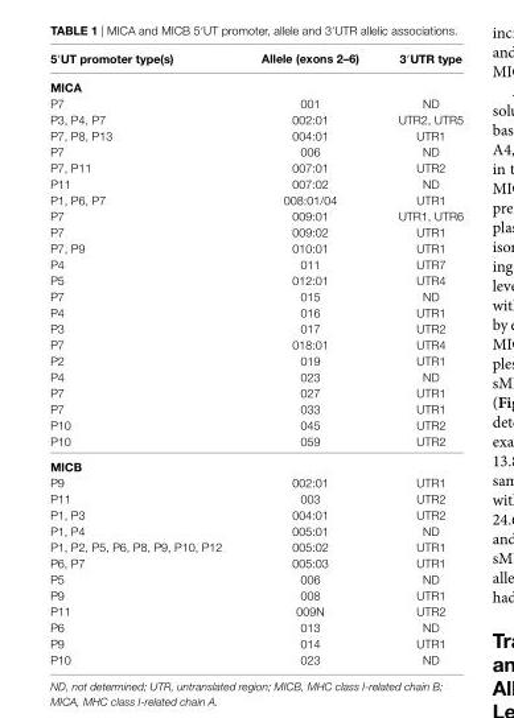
<table><thead><tr><td>5′UT promoter type(s)</td><td>allele (exons 2–6)</td><td>3′UTr type</td></tr></thead><tbody><tr><td colspan="3">Mica</td></tr><tr><td>P7</td><td>001</td><td>ND</td></tr><tr><td>P3, P4, P7</td><td>002:01</td><td>UTR2, UTR5</td></tr><tr><td>P7, P8, P13</td><td>004:01</td><td>UTR1</td></tr><tr><td>P7</td><td>006</td><td>ND</td></tr><tr><td>P7, P11</td><td>007:01</td><td>UTR2</td></tr><tr><td>P11</td><td>007:02</td><td>ND</td></tr><tr><td>P1, P6, P7</td><td>008:01/04</td><td>UTR1</td></tr><tr><td>P7</td><td>009:01</td><td>UTR1, UTR6</td></tr><tr><td>P7</td><td>009:02</td><td>UTR1</td></tr><tr><td>P7, P9</td><td>010:01</td><td>UTR1</td></tr><tr><td>P4</td><td>011</td><td>UTR7</td></tr><tr><td>P5</td><td>012:01</td><td>UTR4</td></tr><tr><td>P7</td><td>015</td><td>ND</td></tr><tr><td>P4</td><td>016</td><td>UTR1</td></tr><tr><td>P3</td><td>017</td><td>UTR2</td></tr><tr><td>P7</td><td>018:01</td><td>UTR4</td></tr><tr><td>P2</td><td>019</td><td>UTR1</td></tr><tr><td>P4</td><td>023</td><td>ND</td></tr><tr><td>P7</td><td>027</td><td>UTR1</td></tr><tr><td>P7</td><td>033</td><td>UTR1</td></tr><tr><td>P10</td><td>045</td><td>UTR2</td></tr><tr><td>P10</td><td>059</td><td>UTR2</td></tr><tr><td colspan="3">MicB</td></tr><tr><td>P9</td><td>002:01</td><td>UTR1</td></tr><tr><td>P11</td><td>003</td><td>UTR2</td></tr><tr><td>P1, P3</td><td>004:01</td><td>UTR2</td></tr><tr><td>P1, P4</td><td>005:01</td><td>ND</td></tr><tr><td>P1, P2, P5, P6, P8, P9, P10, P12</td><td>005:02</td><td>UTR1</td></tr><tr><td>P6, P7</td><td>005:03</td><td>UTR1</td></tr><tr><td>P5</td><td>006</td><td>ND</td></tr><tr><td>P9</td><td>008</td><td>UTR1</td></tr><tr><td>P11</td><td>009N</td><td>UTR2</td></tr><tr><td>P6</td><td>013</td><td>ND</td></tr><tr><td>P9</td><td>014</td><td>UTR1</td></tr><tr><td>P10</td><td>023</td><td>ND</td></tr></tbody></table>